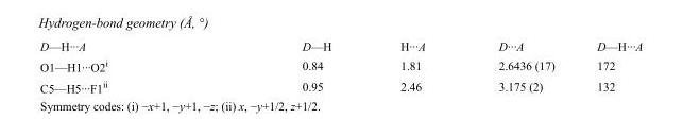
<table><tbody><tr><td>D—H···A</td><td>D—H</td><td>H···A</td><td>D···A</td><td>D—H···A</td></tr><tr><td>O1—H1···O2<sup>i</sup></td><td>0.84</td><td>1.81</td><td>2.6436 (17)</td><td>172</td></tr><tr><td>C5—H5···F1<sup>ii</sup></td><td>0.95</td><td>2.46</td><td>3.175 (2)</td><td>132</td></tr></tbody></table>